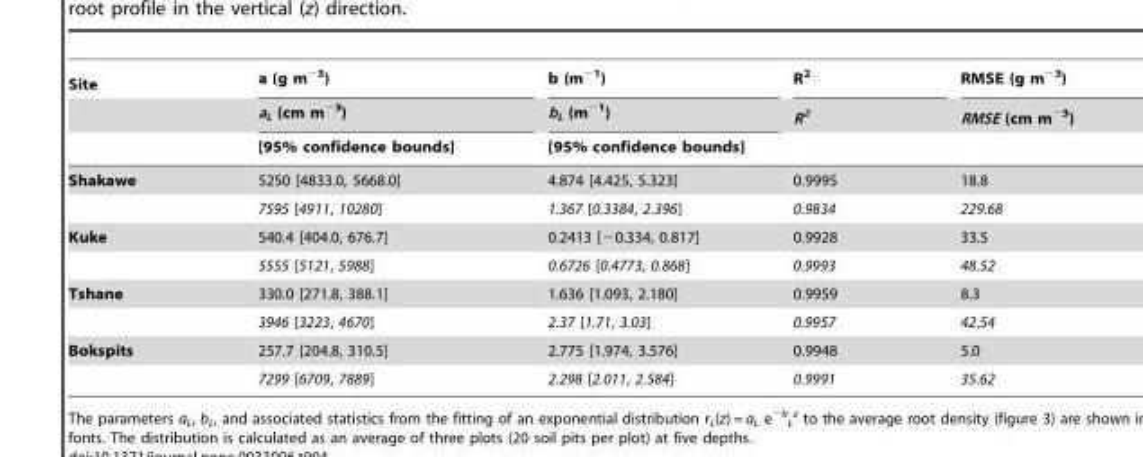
<table><thead><tr><td rowspan="3">Site</td><td rowspan="3">a (g m<sup>−3</sup>) a<sub>L</sub> (cm m<sup>−3</sup>) [95% confidence bounds]</td><td rowspan="3">b (m<sup>−1</sup>) b<sub>L</sub> (m<sup>−1</sup>) [95% confidence bounds]</td><td rowspan="3">R2 R2</td><td rowspan="3">RMSE (g m<sup>−3</sup>) RMSE (cm m<sup>−3</sup>)</td></tr><tr></tr><tr></tr></thead><tbody><tr><td rowspan="2">Shakawe</td><td>5250 [4833.0, 5668.0]</td><td>4.874 [4.425, 5.323]</td><td>0.9995</td><td>18.8</td></tr><tr><td>7595 [4911, 10280]</td><td>1.367 [0.3384, 2.396]</td><td>0.9834</td><td>229.68</td></tr><tr><td rowspan="2">Kuke</td><td>540.4 [404.0, 676.7]</td><td>0.2413 [−0.334, 0.817]</td><td>0.9928</td><td>33.5</td></tr><tr><td>5555 [5121, 5988]</td><td>0.6726 [0.4773, 0.868]</td><td>0.9993</td><td>48.52</td></tr><tr><td rowspan="2">Tshane</td><td>330.0 [271.8, 388.1]</td><td>1.636 [1.093, 2.180]</td><td>0.9959</td><td>8.3</td></tr><tr><td>3946 [3223, 4670]</td><td>2.37 [1.71, 3.03]</td><td>0.9957</td><td>42.54</td></tr><tr><td rowspan="2">Bokspits</td><td>257.7 [204.8, 310.5]</td><td>2.775 [1.974, 3.576]</td><td>0.9948</td><td>5.0</td></tr><tr><td>7299 [6709, 7889]</td><td>2.298 [2.011, 2.584]</td><td>0.9991</td><td>35.62</td></tr></tbody></table>